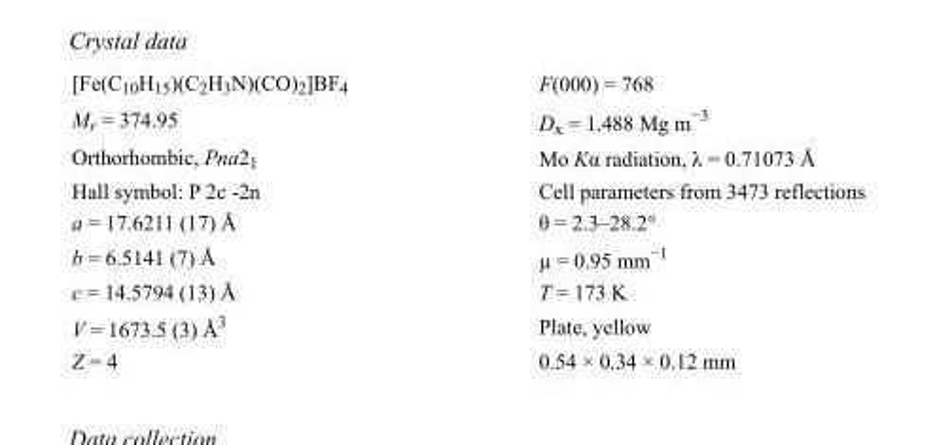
<table><tbody><tr><td>[Fe(C<sub>10</sub>H<sub>15</sub>)(C<sub>2</sub>H<sub>3</sub>N)(CO)<sub>2</sub>]BF<sub>4</sub></td><td>F(000) = 768</td></tr><tr><td>M<sub>r</sub> = 374.95</td><td>D<sub>x</sub> = 1.488 Mg m<sup>−3</sup></td></tr><tr><td>Orthorhombic, Pna2<sub>1</sub></td><td>Mo Kα radiation, λ = 0.71073 Å</td></tr><tr><td>Hall symbol: P 2c -2n</td><td>Cell parameters from 3473 reflections</td></tr><tr><td>a = 17.6211 (17) Å</td><td>θ = 2.3–28.2°</td></tr><tr><td>b = 6.5141 (7) Å</td><td>µ = 0.95 mm<sup>−1</sup></td></tr><tr><td>c = 14.5794 (13) Å</td><td>T = 173 K</td></tr><tr><td>V = 1673.5 (3) Å<sup>3</sup></td><td>Plate, yellow</td></tr><tr><td>Z = 4</td><td>0.54 × 0.34 × 0.12 mm</td></tr></tbody></table>